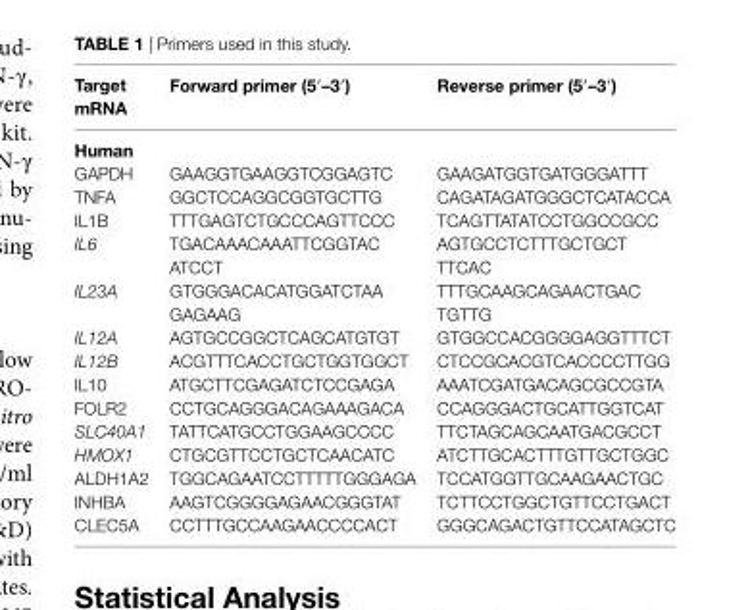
<table><thead><tr><td>Target mrna</td><td>Forward primer (5′–3′)</td><td>reverse primer (5′–3′)</td></tr></thead><tbody><tr><td colspan="3">human</td></tr><tr><td>GAPDH</td><td>GAAGGTGAAGGTCGGAGTC</td><td>GAAGATGGTGATGGGATTT</td></tr><tr><td>TNFA</td><td>GGCTCCAGGCGGTGCTTG</td><td>CAGATAGATGGGCTCATACCA</td></tr><tr><td>IL1B</td><td>TTTGAGTCTGCCCAGTTCCC</td><td>TCAGTTATATCCTGGCCGCC</td></tr><tr><td>IL6</td><td>TGACAAACAAATTCGGTAC ATCCT</td><td>AGTGCCTCTTTGCTGCT TTCAC</td></tr><tr><td>IL23A</td><td>GTGGGACACATGGATCTAA GAGAAG</td><td>TTTGCAAGCAGAACTGAC TGTTG</td></tr><tr><td>IL12A</td><td>AGTGCCGGCTCAGCATGTGT</td><td>GTGGCCACGGGGAGGTTTCT</td></tr><tr><td>IL12B</td><td>ACGTTTCACCTGCTGGTGGCT</td><td>CTCCGCACGTCACCCCTTGG</td></tr><tr><td>IL10</td><td>ATGCTTCGAGATCTCCGAGA</td><td>AAATCGATGACAGCGCCGTA</td></tr><tr><td>FOLR2</td><td>CCTGCAGGGACAGAAAGACA</td><td>CCAGGGACTGCATTGGTCAT</td></tr><tr><td>SLC40A1</td><td>TATTCATGCCTGGAAGCCCC</td><td>TTCTAGCAGCAATGACGCCT</td></tr><tr><td>HMOX1</td><td>CTGCGTTCCTGCTCAACATC</td><td>ATCTTGCACTTTGTTGCTGGC</td></tr><tr><td>ALDH1A2</td><td>TGGCAGAATCCTTTTTGGGAGA</td><td>TCCATGGTTGCAAGAACTGC</td></tr><tr><td>INHBA</td><td>AAGTCGGGGAGAACGGGTAT</td><td>TCTTCCTGGCTGTTCCTGACT</td></tr><tr><td>CLEC5A</td><td>CCTTTGCCAAGAACCCCACT</td><td>GGGCAGACTGTTCCATAGCTC</td></tr></tbody></table>